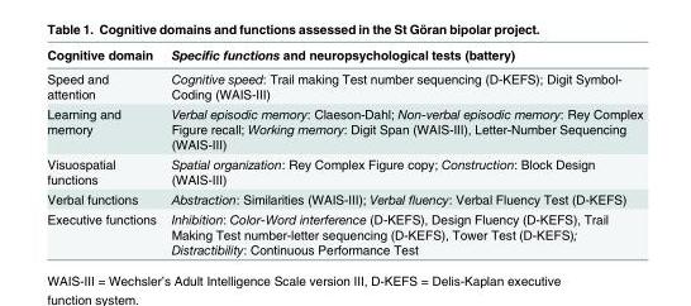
<table><thead><tr><td>Cognitive domain</td><td>Specific functions and neuropsychological tests (battery)</td></tr></thead><tbody><tr><td>Speed and attention</td><td>Cognitive speed: Trail making Test number sequencing (D-KEFS); Digit Symbol- Coding (WAIS-III)</td></tr><tr><td>Learning and memory</td><td>Verbal episodic memory: Claeson-Dahl; Non-verbal episodic memory: Rey Complex Figure recall; Working memory: Digit Span (WAIS-III), Letter-Number Sequencing (WAIS-III)</td></tr><tr><td>Visuospatial functions</td><td>Spatial organization: Rey Complex Figure copy; Construction: Block Design (WAIS-III)</td></tr><tr><td>Verbal functions</td><td>Abstraction: Similarities (WAIS-III); Verbal fluency: Verbal Fluency Test (D-KEFS)</td></tr><tr><td>Executive functions</td><td>Inhibition: Color-Word interference (D-KEFS), Design Fluency (D-KEFS), Trail Making Test number-letter sequencing (D-KEFS), Tower Test (D-KEFS); Distractibility: Continuous Performance Test</td></tr></tbody></table>